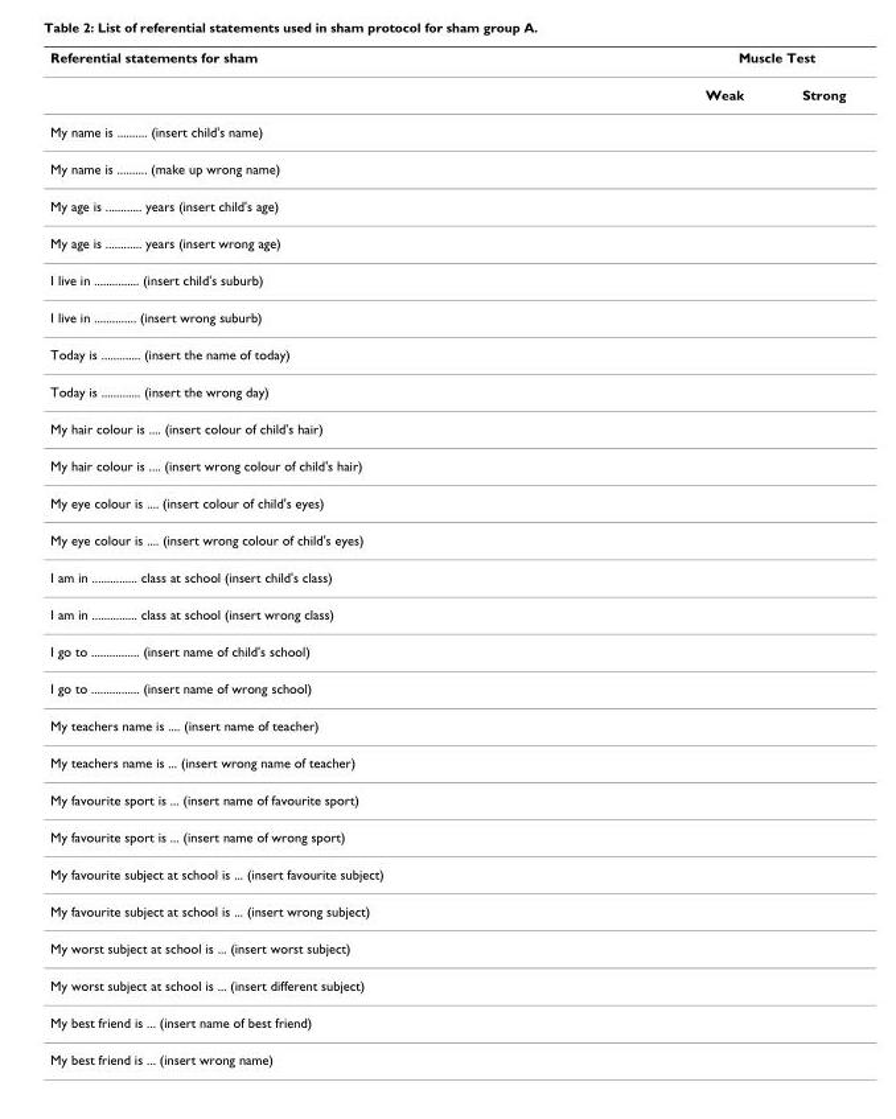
<table><thead><tr><td rowspan="2">Referential statements for sham</td><td colspan="2">Muscle Test</td></tr><tr><td>Weak</td><td>Strong</td></tr></thead><tbody><tr><td colspan="3">My name is .......... (insert child&#x27;s name)</td></tr><tr><td colspan="3">My name is .......... (make up wrong name)</td></tr><tr><td colspan="3">My age is ............ years (insert child&#x27;s age)</td></tr><tr><td colspan="3">My age is ............ years (insert wrong age)</td></tr><tr><td colspan="3">I live in ............... (insert child&#x27;s suburb)</td></tr><tr><td colspan="3">I live in .............. (insert wrong suburb)</td></tr><tr><td colspan="3">Today is ............. (insert the name of today)</td></tr><tr><td colspan="3">Today is ............. (insert the wrong day)</td></tr><tr><td colspan="3">My hair colour is .... (insert colour of child&#x27;s hair)</td></tr><tr><td colspan="3">My hair colour is .... (insert wrong colour of child&#x27;s hair)</td></tr><tr><td colspan="3">My eye colour is .... (insert colour of child&#x27;s eyes)</td></tr><tr><td colspan="3">My eye colour is .... (insert wrong colour of child&#x27;s eyes)</td></tr><tr><td colspan="3">I am in ............... class at school (insert child&#x27;s class)</td></tr><tr><td colspan="3">I am in ............... class at school (insert wrong class)</td></tr><tr><td colspan="3">I go to ................ (insert name of child&#x27;s school)</td></tr><tr><td colspan="3">I go to ................ (insert name of wrong school)</td></tr><tr><td colspan="3">My teachers name is .... (insert name of teacher)</td></tr><tr><td colspan="3">My teachers name is ... (insert wrong name of teacher)</td></tr><tr><td colspan="3">My favourite sport is ... (insert name of favourite sport)</td></tr><tr><td colspan="3">My favourite sport is ... (insert name of wrong sport)</td></tr><tr><td colspan="3">My favourite subject at school is ... (insert favourite subject)</td></tr><tr><td colspan="3">My favourite subject at school is ... (insert wrong subject)</td></tr><tr><td colspan="3">My worst subject at school is ... (insert worst subject)</td></tr><tr><td colspan="3">My worst subject at school is ... (insert different subject)</td></tr><tr><td colspan="3">My best friend is ... (insert name of best friend)</td></tr><tr><td>My best friend is ... (insert wrong name)</td><td></td><td></td></tr></tbody></table>